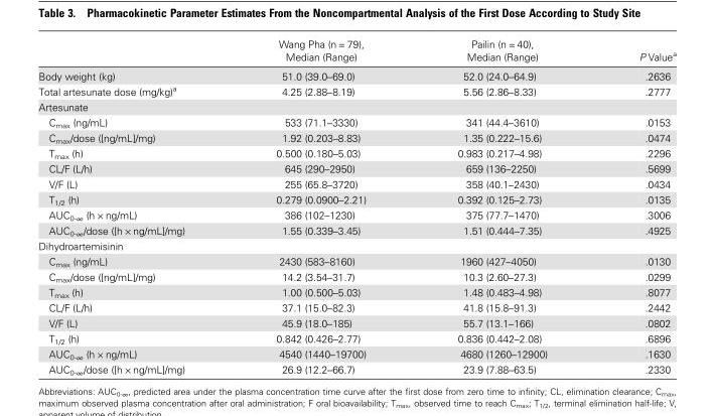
<table><thead><tr><td></td><td>Wang Pha (n = 79), Median (Range)</td><td>Pailin (n = 40), Median (Range)</td><td>P Value<sup>a</sup></td></tr></thead><tbody><tr><td>Body weight (kg)</td><td>51.0 (39.0–69.0)</td><td>52.0 (24.0–64.9)</td><td>.2636</td></tr><tr><td>Total artesunate dose (mg/kg)<sup>a</sup></td><td>4.25 (2.88–8.19)</td><td>5.56 (2.86–8.33)</td><td>.2777</td></tr><tr><td colspan="4">Artesunate</td></tr><tr><td>C<sub>max</sub> (ng/mL)</td><td>533 (71.1–3330)</td><td>341 (44.4–3610)</td><td>.0153</td></tr><tr><td>C<sub>max</sub>/dose ([ng/mL]/mg)</td><td>1.92 (0.203–8.83)</td><td>1.35 (0.222–15.6)</td><td>.0474</td></tr><tr><td>T<sub>max</sub> (h)</td><td>0.500 (0.180–5.03)</td><td>0.983 (0.217–4.98)</td><td>.2296</td></tr><tr><td>CL/F (L/h)</td><td>645 (290–2950)</td><td>659 (136–2250)</td><td>.5699</td></tr><tr><td>V/F (L)</td><td>255 (65.8–3720)</td><td>358 (40.1–2430)</td><td>.0434</td></tr><tr><td>T<sub>1/2</sub> (h)</td><td>0.279 (0.0900–2.21)</td><td>0.392 (0.125–2.73)</td><td>.0135</td></tr><tr><td>AUC<sub>0-∞</sub> (h × ng/mL)</td><td>386 (102–1230)</td><td>375 (77.7–1470)</td><td>.3006</td></tr><tr><td>AUC<sub>0-∞</sub>/dose ([h × ng/mL]/mg)</td><td>1.55 (0.339–3.45)</td><td>1.51 (0.444–7.35)</td><td>.4925</td></tr><tr><td colspan="4">Dihydroartemisinin</td></tr><tr><td>C<sub>max</sub> (ng/mL)</td><td>2430 (583–8160)</td><td>1960 (427–4050)</td><td>.0130</td></tr><tr><td>C<sub>max</sub>/dose ([ng/mL]/mg)</td><td>14.2 (3.54–31.7)</td><td>10.3 (2.60–27.3)</td><td>.0299</td></tr><tr><td>T<sub>max</sub> (h)</td><td>1.00 (0.500–5.03)</td><td>1.48 (0.483–4.98)</td><td>.8077</td></tr><tr><td>CL/F (L/h)</td><td>37.1 (15.0–82.3)</td><td>41.8 (15.8–91.3)</td><td>.2442</td></tr><tr><td>V/F (L)</td><td>45.9 (18.0–185)</td><td>55.7 (13.1–166)</td><td>.0802</td></tr><tr><td>T<sub>1/2</sub> (h)</td><td>0.842 (0.426–2.77)</td><td>0.836 (0.442–2.08)</td><td>.6896</td></tr><tr><td>AUC<sub>0-∞</sub> (h × ng/mL)</td><td>4540 (1440–19700)</td><td>4680 (1260–12900)</td><td>.1630</td></tr><tr><td>AUC<sub>0-∞</sub>/dose ([h × ng/mL]/mg)</td><td>26.9 (12.2–66.7)</td><td>23.9 (7.88–63.5)</td><td>.2330</td></tr></tbody></table>